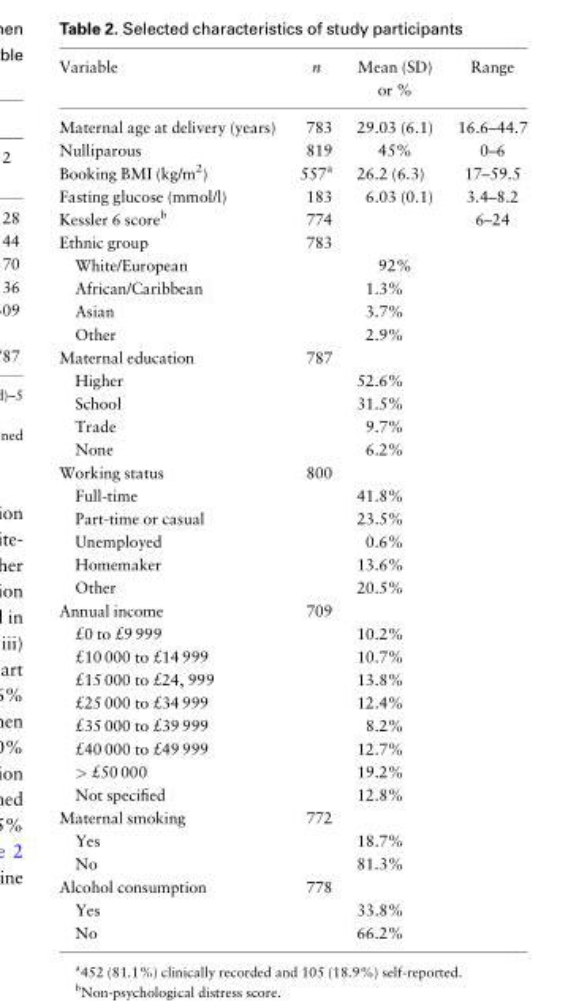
<table><thead><tr><td>Variable</td><td>n</td><td>Mean (SD) or %</td><td>Range</td></tr></thead><tbody><tr><td>Maternal age at delivery (years)</td><td>783</td><td>29.03 (6.1)</td><td>16.6–44.7</td></tr><tr><td>Nulliparous</td><td>819</td><td>45%</td><td>0–6</td></tr><tr><td>Booking BMI (kg/m<sup>2</sup>)</td><td>557<sup>a</sup></td><td>26.2 (6.3)</td><td>17–59.5</td></tr><tr><td>Fasting glucose (mmol/l)</td><td>183</td><td>6.03 (0.1)</td><td>3.4–8.2</td></tr><tr><td>Kessler 6 score<sup>b</sup></td><td>774</td><td></td><td>6–24</td></tr><tr><td>Ethnic group</td><td>783</td><td></td><td></td></tr><tr><td>White/European</td><td></td><td>92%</td><td></td></tr><tr><td>African/Caribbean</td><td></td><td>1.3%</td><td></td></tr><tr><td>Asian</td><td></td><td>3.7%</td><td></td></tr><tr><td>Other</td><td></td><td>2.9%</td><td></td></tr><tr><td>Maternal education</td><td>787</td><td></td><td></td></tr><tr><td>Higher</td><td></td><td>52.6%</td><td></td></tr><tr><td>School</td><td></td><td>31.5%</td><td></td></tr><tr><td>Trade</td><td></td><td>9.7%</td><td></td></tr><tr><td>None</td><td></td><td>6.2%</td><td></td></tr><tr><td>Working status</td><td>800</td><td></td><td></td></tr><tr><td>Full-time</td><td></td><td>41.8%</td><td></td></tr><tr><td>Part-time or casual</td><td></td><td>23.5%</td><td></td></tr><tr><td>Unemployed</td><td></td><td>0.6%</td><td></td></tr><tr><td>Homemaker</td><td></td><td>13.6%</td><td></td></tr><tr><td>Other</td><td></td><td>20.5%</td><td></td></tr><tr><td>Annual income</td><td>709</td><td></td><td></td></tr><tr><td>£0 to £9 999</td><td></td><td>10.2%</td><td></td></tr><tr><td>£10 000 to £14 999</td><td></td><td>10.7%</td><td></td></tr><tr><td>£15 000 to £24, 999</td><td></td><td>13.8%</td><td></td></tr><tr><td>£25 000 to £34 999</td><td></td><td>12.4%</td><td></td></tr><tr><td>£35 000 to £39 999</td><td></td><td>8.2%</td><td></td></tr><tr><td>£40 000 to £49 999</td><td></td><td>12.7%</td><td></td></tr><tr><td>&gt; £50 000</td><td></td><td>19.2%</td><td></td></tr><tr><td>Not specified</td><td></td><td>12.8%</td><td></td></tr><tr><td>Maternal smoking</td><td>772</td><td></td><td></td></tr><tr><td>Yes</td><td></td><td>18.7%</td><td></td></tr><tr><td>No</td><td></td><td>81.3%</td><td></td></tr><tr><td>Alcohol consumption</td><td>778</td><td></td><td></td></tr><tr><td>Yes</td><td></td><td>33.8%</td><td></td></tr><tr><td>No</td><td></td><td>66.2%</td><td></td></tr></tbody></table>